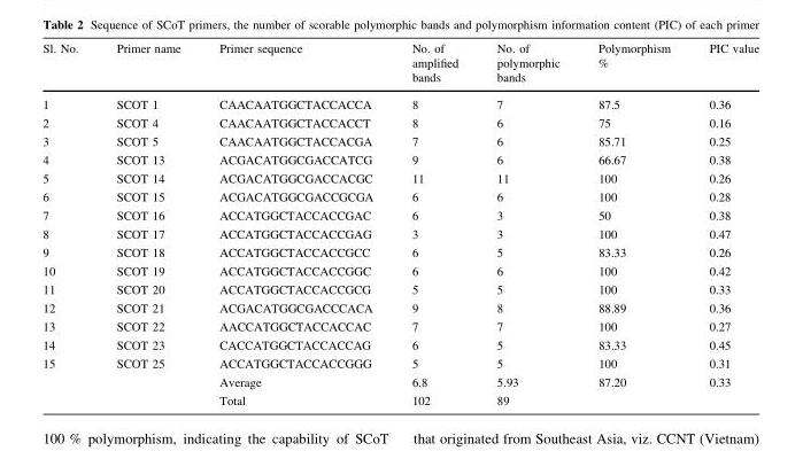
<table><thead><tr><td>Sl. No.</td><td>Primer name</td><td>Primer sequence</td><td>No. of amplified bands</td><td>No. of polymorphic bands</td><td>Polymorphism %</td><td>PIC value</td></tr></thead><tbody><tr><td>1</td><td>SCOT 1</td><td>CAACAATGGCTACCACCA</td><td>8</td><td>7</td><td>87.5</td><td>0.36</td></tr><tr><td>2</td><td>SCOT 4</td><td>CAACAATGGCTACCACCT</td><td>8</td><td>6</td><td>75</td><td>0.16</td></tr><tr><td>3</td><td>SCOT 5</td><td>CAACAATGGCTACCACGA</td><td>7</td><td>6</td><td>85.71</td><td>0.25</td></tr><tr><td>4</td><td>SCOT 13</td><td>ACGACATGGCGACCATCG</td><td>9</td><td>6</td><td>66.67</td><td>0.38</td></tr><tr><td>5</td><td>SCOT 14</td><td>ACGACATGGCGACCACGC</td><td>11</td><td>11</td><td>100</td><td>0.26</td></tr><tr><td>6</td><td>SCOT 15</td><td>ACGACATGGCGACCGCGA</td><td>6</td><td>6</td><td>100</td><td>0.28</td></tr><tr><td>7</td><td>SCOT 16</td><td>ACCATGGCTACCACCGAC</td><td>6</td><td>3</td><td>50</td><td>0.38</td></tr><tr><td>8</td><td>SCOT 17</td><td>ACCATGGCTACCACCGAG</td><td>3</td><td>3</td><td>100</td><td>0.47</td></tr><tr><td>9</td><td>SCOT 18</td><td>ACCATGGCTACCACCGCC</td><td>6</td><td>5</td><td>83.33</td><td>0.26</td></tr><tr><td>10</td><td>SCOT 19</td><td>ACCATGGCTACCACCGGC</td><td>6</td><td>6</td><td>100</td><td>0.42</td></tr><tr><td>11</td><td>SCOT 20</td><td>ACCATGGCTACCACCGCG</td><td>5</td><td>5</td><td>100</td><td>0.33</td></tr><tr><td>12</td><td>SCOT 21</td><td>ACGACATGGCGACCCACA</td><td>9</td><td>8</td><td>88.89</td><td>0.36</td></tr><tr><td>13</td><td>SCOT 22</td><td>AACCATGGCTACCACCAC</td><td>7</td><td>7</td><td>100</td><td>0.27</td></tr><tr><td>14</td><td>SCOT 23</td><td>CACCATGGCTACCACCAG</td><td>6</td><td>5</td><td>83.33</td><td>0.45</td></tr><tr><td rowspan="3">15</td><td>SCOT 25</td><td>ACCATGGCTACCACCGGG</td><td>5</td><td>5</td><td>100</td><td>0.31</td></tr><tr><td></td><td>Average</td><td>6.8</td><td>5.93</td><td>87.20</td><td>0.33</td></tr><tr><td></td><td>Total</td><td>102</td><td>89</td><td></td><td></td></tr></tbody></table>